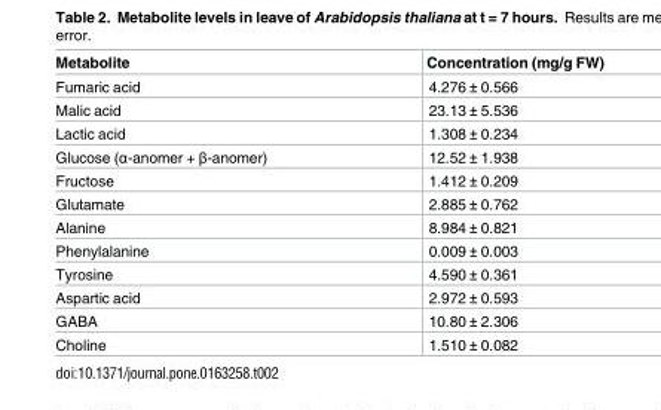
<table><thead><tr><td>Metabolite</td><td>Concentration (mg/g FW)</td></tr></thead><tbody><tr><td>Fumaric acid</td><td>4.276 ± 0.566</td></tr><tr><td>Malic acid</td><td>23.13 ± 5.536</td></tr><tr><td>Lactic acid</td><td>1.308 ± 0.234</td></tr><tr><td>Glucose (α-anomer + β-anomer)</td><td>12.52 ± 1.938</td></tr><tr><td>Fructose</td><td>1.412 ± 0.209</td></tr><tr><td>Glutamate</td><td>2.885 ± 0.762</td></tr><tr><td>Alanine</td><td>8.984 ± 0.821</td></tr><tr><td>Phenylalanine</td><td>0.009 ± 0.003</td></tr><tr><td>Tyrosine</td><td>4.590 ± 0.361</td></tr><tr><td>Aspartic acid</td><td>2.972 ± 0.593</td></tr><tr><td>GABA</td><td>10.80 ± 2.306</td></tr><tr><td>Choline</td><td>1.510 ± 0.082</td></tr></tbody></table>